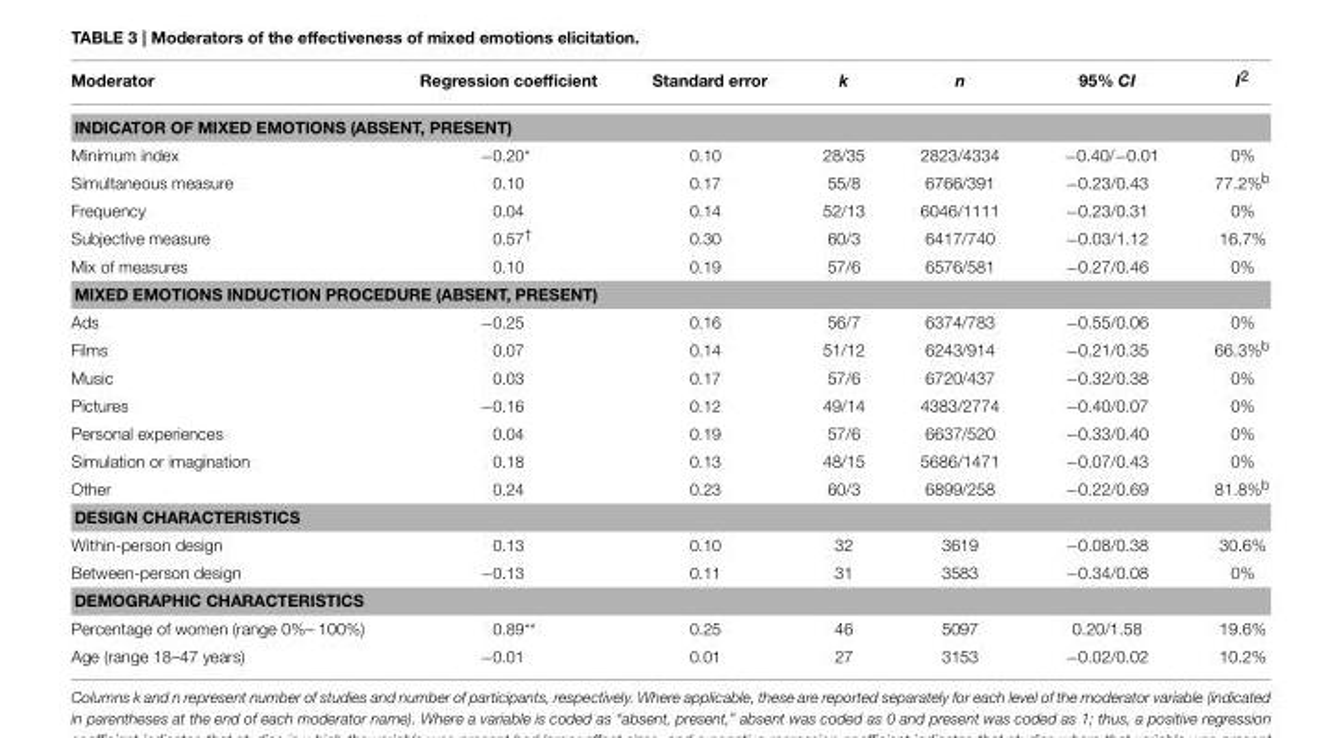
<table><thead><tr><td>Moderator</td><td>Regression coefficient</td><td>Standard error</td><td>k</td><td>n</td><td>95% CI</td><td>I<sup>2</sup></td></tr></thead><tbody><tr><td colspan="7">INDICATOR OF MIXED EMOTIONS (ABSENT, PRESENT)</td></tr><tr><td>Minimum index</td><td>−0.20*</td><td>0.10</td><td>28/35</td><td>2823/4334</td><td>−0.40/−0.01</td><td>0%</td></tr><tr><td>Simultaneous measure</td><td>0.10</td><td>0.17</td><td>55/8</td><td>6766/391</td><td>−0.23/0.43</td><td>77.2%<sup>b</sup></td></tr><tr><td>Frequency</td><td>0.04</td><td>0.14</td><td>52/13</td><td>6046/1111</td><td>−0.23/0.31</td><td>0%</td></tr><tr><td>Subjective measure</td><td>0.57<sup>†</sup></td><td>0.30</td><td>60/3</td><td>6417/740</td><td>−0.03/1.12</td><td>16.7%</td></tr><tr><td>Mix of measures</td><td>0.10</td><td>0.19</td><td>57/6</td><td>6576/581</td><td>−0.27/0.46</td><td>0%</td></tr><tr><td colspan="7">MIXED EMOTIONS INDUCTION PROCEDURE (ABSENT, PRESENT)</td></tr><tr><td>Ads</td><td>−0.25</td><td>0.16</td><td>56/7</td><td>6374/783</td><td>−0.55/0.06</td><td>0%</td></tr><tr><td>Films</td><td>0.07</td><td>0.14</td><td>51/12</td><td>6243/914</td><td>−0.21/0.35</td><td>66.3%<sup>b</sup></td></tr><tr><td>Music</td><td>0.03</td><td>0.17</td><td>57/6</td><td>6720/437</td><td>−0.32/0.38</td><td>0%</td></tr><tr><td>Pictures</td><td>−0.16</td><td>0.12</td><td>49/14</td><td>4383/2774</td><td>−0.40/0.07</td><td>0%</td></tr><tr><td>Personal experiences</td><td>0.04</td><td>0.19</td><td>57/6</td><td>6637/520</td><td>−0.33/0.40</td><td>0%</td></tr><tr><td>Simulation or imagination</td><td>0.18</td><td>0.13</td><td>48/15</td><td>5686/1471</td><td>−0.07/0.43</td><td>0%</td></tr><tr><td>Other</td><td>0.24</td><td>0.23</td><td>60/3</td><td>6899/258</td><td>−0.22/0.69</td><td>81.8%<sup>b</sup></td></tr><tr><td colspan="7">DESIGN CHARACTERISTICS</td></tr><tr><td>Within-person design</td><td>0.13</td><td>0.10</td><td>32</td><td>3619</td><td>−0.08/0.38</td><td>30.6%</td></tr><tr><td>Between-person design</td><td>−0.13</td><td>0.11</td><td>31</td><td>3583</td><td>−0.34/0.08</td><td>0%</td></tr><tr><td colspan="7">DEMOGRAPHIC CHARACTERISTICS</td></tr><tr><td>Percentage of women (range 0%– 100%)</td><td>0.89**</td><td>0.25</td><td>46</td><td>5097</td><td>0.20/1.58</td><td>19.6%</td></tr><tr><td>Age (range 18–47 years)</td><td>−0.01</td><td>0.01</td><td>27</td><td>3153</td><td>−0.02/0.02</td><td>10.2%</td></tr></tbody></table>